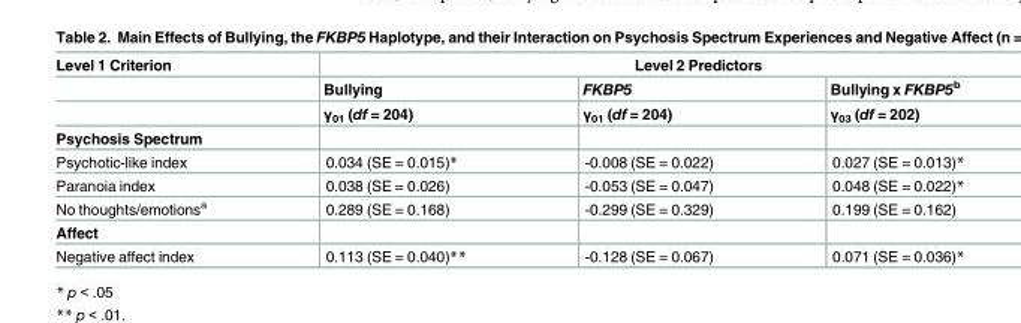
<table><thead><tr><td rowspan="3">Level 1 Criterion</td><td colspan="3">Level 2 Predictors</td></tr><tr><td rowspan="2">Bullying γ<sub>01</sub> (df = 204)</td><td rowspan="2">FKBP5 γ<sub>01</sub> (df = 204)</td><td rowspan="2">Bullying x FKBP5<sup>b</sup> γ<sub>03</sub> (df = 202)</td></tr><tr></tr></thead><tbody><tr><td colspan="4">Psychosis Spectrum</td></tr><tr><td>Psychotic-like index</td><td>0.034 (SE = 0.015)*</td><td>-0.008 (SE = 0.022)</td><td>0.027 (SE = 0.013)*</td></tr><tr><td>Paranoia index</td><td>0.038 (SE = 0.026)</td><td>-0.053 (SE = 0.047)</td><td>0.048 (SE = 0.022)*</td></tr><tr><td>No thoughts/emotions<sup>a</sup></td><td>0.289 (SE = 0.168)</td><td>-0.299 (SE = 0.329)</td><td>0.199 (SE = 0.162)</td></tr><tr><td colspan="4">Affect</td></tr><tr><td>Negative affect index</td><td>0.113 (SE = 0.040)**</td><td>-0.128 (SE = 0.067)</td><td>0.071 (SE = 0.036)*</td></tr></tbody></table>